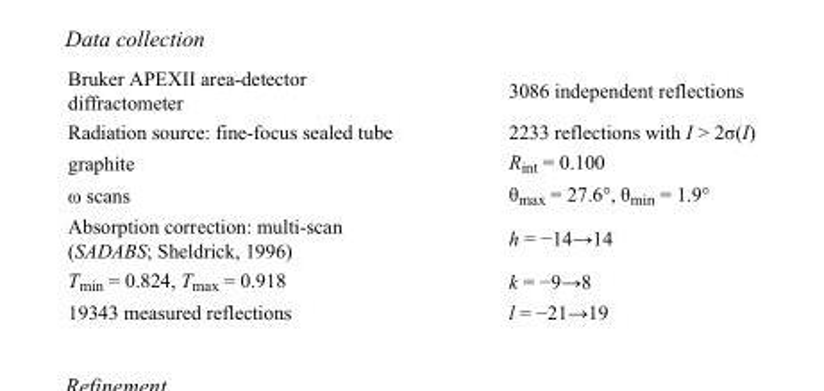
<table><tbody><tr><td>Bruker APEXII area-detector diffractometer</td><td>3086 independent reflections</td></tr><tr><td>Radiation source: fine-focus sealed tube</td><td>2233 reflections with I &gt; 2σ(I)</td></tr><tr><td>graphite</td><td>R<sub>int</sub> = 0.100</td></tr><tr><td>ω scans</td><td>θ<sub>max</sub> = 27.6°, θ<sub>min</sub> = 1.9°</td></tr><tr><td>Absorption correction: multi-scan (SADABS; Sheldrick, 1996)</td><td>h = −14→14</td></tr><tr><td>T<sub>min</sub> = 0.824, T<sub>max</sub> = 0.918</td><td>k = −9→8</td></tr><tr><td>19343 measured reflections</td><td>l = −21→19</td></tr></tbody></table>